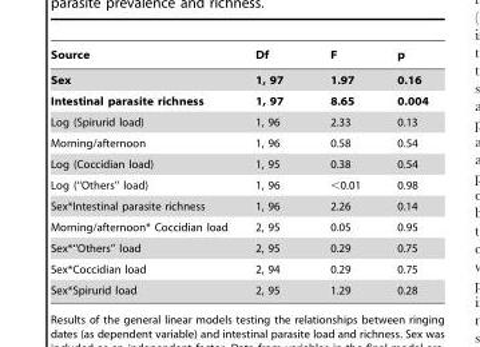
<table><thead><tr><td>Source</td><td>Df</td><td>F</td><td>p</td></tr></thead><tbody><tr><td>Sex</td><td>1, 97</td><td>1.97</td><td>0.16</td></tr><tr><td>Intestinal parasite richness</td><td>1, 97</td><td>8.65</td><td>0.004</td></tr><tr><td>Log (Spirurid load)</td><td>1, 96</td><td>2.33</td><td>0.13</td></tr><tr><td>Morning/afternoon</td><td>1, 96</td><td>0.58</td><td>0.54</td></tr><tr><td>Log (Coccidian load)</td><td>1, 95</td><td>0.38</td><td>0.54</td></tr><tr><td>Log (‘‘Others’’ load)</td><td>1, 96</td><td>&lt;0.01</td><td>0.98</td></tr><tr><td>Sex*Intestinal parasite richness</td><td>1, 96</td><td>2.26</td><td>0.14</td></tr><tr><td>Morning/afternoon* Coccidian load</td><td>2, 95</td><td>0.05</td><td>0.95</td></tr><tr><td>Sex*‘‘Others’’ load</td><td>2, 95</td><td>0.29</td><td>0.75</td></tr><tr><td>Sex*Coccidian load</td><td>2, 94</td><td>0.29</td><td>0.75</td></tr><tr><td>Sex*Spirurid load</td><td>2, 95</td><td>1.29</td><td>0.28</td></tr></tbody></table>